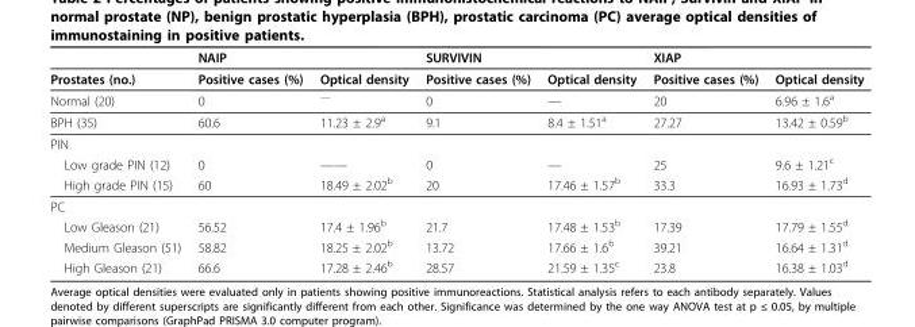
<table><thead><tr><td rowspan="2">Prostates (no.)</td><td colspan="2">NAIP</td><td colspan="2">SURVIVIN</td><td colspan="2">XIAP</td></tr><tr><td>Positive cases (%)</td><td>Optical density</td><td>Positive cases (%)</td><td>Optical density</td><td>Positive cases (%)</td><td>Optical density</td></tr></thead><tbody><tr><td>Normal (20)</td><td>0</td><td>—</td><td>0</td><td>—</td><td>20</td><td>6.96 ± 1.6a</td></tr><tr><td>BPH (35)</td><td>60.6</td><td>11.23 ± 2.9<sup>a</sup></td><td>9.1</td><td>8.4 ± 1.51<sup>a</sup></td><td>27.27</td><td>13.42 ± 0.59<sup>b</sup></td></tr><tr><td colspan="7">PIN</td></tr><tr><td>Low grade PIN (12)</td><td>0</td><td>——</td><td>0</td><td>—</td><td>25</td><td>9.6 ± 1.21<sup>c</sup></td></tr><tr><td>High grade PIN (15)</td><td>60</td><td>18.49 ± 2.02<sup>b</sup></td><td>20</td><td>17.46 ± 1.57<sup>b</sup></td><td>33.3</td><td>16.93 ± 1.73<sup>d</sup></td></tr><tr><td colspan="7">PC</td></tr><tr><td>Low Gleason (21)</td><td>56.52</td><td>17.4 ± 1.96<sup>b</sup></td><td>21.7</td><td>17.48 ± 1.53<sup>b</sup></td><td>17.39</td><td>17.79 ± 1.55<sup>d</sup></td></tr><tr><td>Medium Gleason (51)</td><td>58.82</td><td>18.25 ± 2.02<sup>b</sup></td><td>13.72</td><td>17.66 ± 1.6<sup>b</sup></td><td>39.21</td><td>16.64 ± 1.31<sup>d</sup></td></tr><tr><td>High Gleason (21)</td><td>66.6</td><td>17.28 ± 2.46<sup>b</sup></td><td>28.57</td><td>21.59 ± 1.35<sup>c</sup></td><td>23.8</td><td>16.38 ± 1.03<sup>d</sup></td></tr></tbody></table>